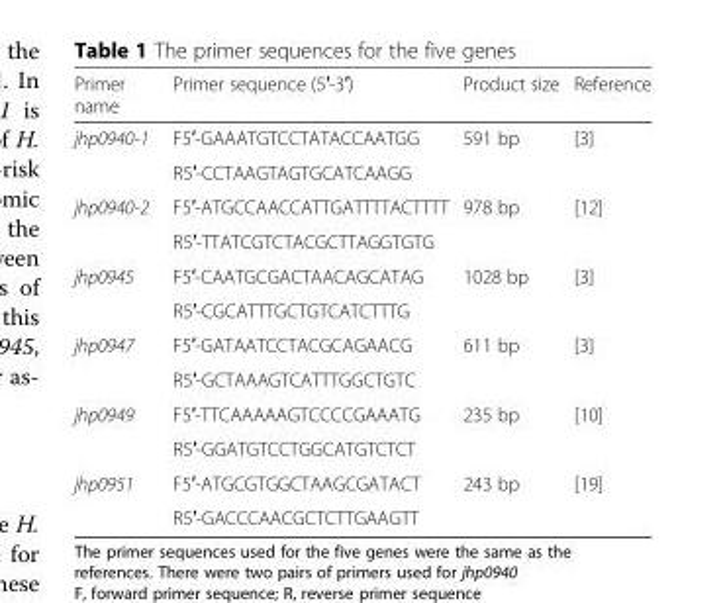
<table><thead><tr><td>Primer name</td><td>Primer sequence (5′-3′)</td><td>Product size</td><td>Reference</td></tr></thead><tbody><tr><td rowspan="2">jhp0940-1</td><td>F5′-GAAATGTCCTATACCAATGG</td><td rowspan="2">591 bp</td><td rowspan="2">[3]</td></tr><tr><td>R5′-CCTAAGTAGTGCATCAAGG</td></tr><tr><td rowspan="2">jhp0940-2</td><td>F5′-ATGCCAACCATTGATTTTACTTTT</td><td rowspan="2">978 bp</td><td rowspan="2">[12]</td></tr><tr><td>R5′-TTATCGTCTACGCTTAGGTGTG</td></tr><tr><td rowspan="2">jhp0945</td><td>F5′-CAATGCGACTAACAGCATAG</td><td rowspan="2">1028 bp</td><td rowspan="2">[3]</td></tr><tr><td>R5′-CGCATTTGCTGTCATCTTTG</td></tr><tr><td rowspan="2">jhp0947</td><td>F5′-GATAATCCTACGCAGAACG</td><td rowspan="2">611 bp</td><td rowspan="2">[3]</td></tr><tr><td>R5′-GCTAAAGTCATTTGGCTGTC</td></tr><tr><td rowspan="2">jhp0949</td><td>F5′-TTCAAAAAGTCCCCGAAATG</td><td rowspan="2">235 bp</td><td rowspan="2">[10]</td></tr><tr><td>R5′-GGATGTCCTGGCATGTCTCT</td></tr><tr><td rowspan="2">jhp0951</td><td>F5′-ATGCGTGGCTAAGCGATACT</td><td rowspan="2">243 bp</td><td rowspan="2">[19]</td></tr><tr><td>R5′-GACCCAACGCTCTTGAAGTT</td></tr></tbody></table>